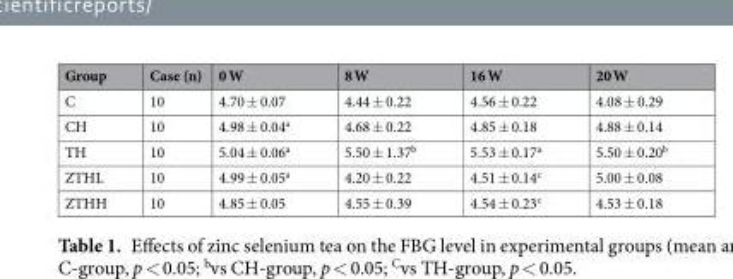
<table><thead><tr><td>Group</td><td>Case (n)</td><td>0 W</td><td>8 W</td><td>16 W</td><td>20 W</td></tr></thead><tbody><tr><td>C</td><td>10</td><td>4.70 ± 0.07</td><td>4.44 ± 0.22</td><td>4.56 ± 0.22</td><td>4.08 ± 0.29</td></tr><tr><td>CH</td><td>10</td><td>4.98 ± 0.04<sup>a</sup></td><td>4.68 ± 0.22</td><td>4.85 ± 0.18</td><td>4.88 ± 0.14</td></tr><tr><td>TH</td><td>10</td><td>5.04 ± 0.06<sup>a</sup></td><td>5.50 ± 1.37<sup>b</sup></td><td>5.53 ± 0.17<sup>a</sup></td><td>5.50 ± 0.20<sup>b</sup></td></tr><tr><td>ZTHL</td><td>10</td><td>4.99 ± 0.05<sup>a</sup></td><td>4.20 ± 0.22</td><td>4.51 ± 0.14<sup>c</sup></td><td>5.00 ± 0.08</td></tr><tr><td>ZTHH</td><td>10</td><td>4.85 ± 0.05</td><td>4.55 ± 0.39</td><td>4.54 ± 0.23<sup>c</sup></td><td>4.53 ± 0.18</td></tr></tbody></table>